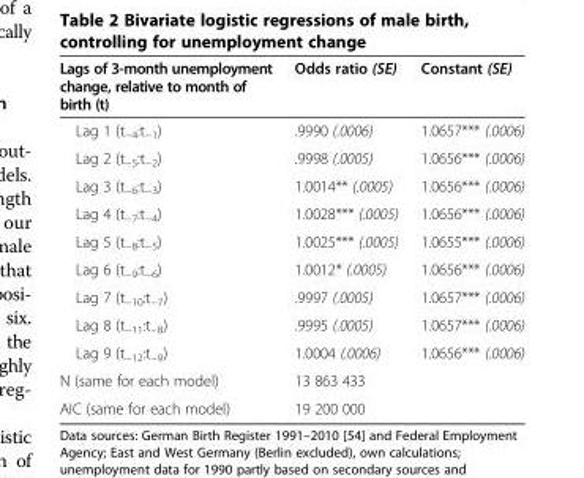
<table><thead><tr><td>Lags of 3-month unemployment change, relative to month of birth (t)</td><td>Odds ratio (SE)</td><td>Constant (SE)</td></tr></thead><tbody><tr><td>Lag 1 (t<sub>−4</sub>:t<sub>−1</sub>)</td><td>.9990 (.0006)</td><td>1.0657*** (.0006)</td></tr><tr><td>Lag 2 (t<sub>−5</sub>:t<sub>−2</sub>)</td><td>.9998 (.0005)</td><td>1.0656*** (.0006)</td></tr><tr><td>Lag 3 (t<sub>−6</sub>:t<sub>−3</sub>)</td><td>1.0014** (.0005)</td><td>1.0656*** (.0006)</td></tr><tr><td>Lag 4 (t<sub>−7</sub>:t<sub>−4</sub>)</td><td>1.0028*** (.0005)</td><td>1.0656*** (.0006)</td></tr><tr><td>Lag 5 (t<sub>−8</sub>:t<sub>−5</sub>)</td><td>1.0025*** (.0005)</td><td>1.0655*** (.0006)</td></tr><tr><td>Lag 6 (t<sub>−9</sub>:t<sub>−6</sub>)</td><td>1.0012* (.0005)</td><td>1.0656*** (.0006)</td></tr><tr><td>Lag 7 (t<sub>−10</sub>:t<sub>−7</sub>)</td><td>.9997 (.0005)</td><td>1.0657*** (.0006)</td></tr><tr><td>Lag 8 (t<sub>−11</sub>:t<sub>−8</sub>)</td><td>.9995 (.0005)</td><td>1.0657*** (.0006)</td></tr><tr><td>Lag 9 (t<sub>−12</sub>:t<sub>−9</sub>)</td><td>1.0004 (.0006)</td><td>1.0656*** (.0006)</td></tr><tr><td>N (same for each model)</td><td colspan="2">13 863 433</td></tr><tr><td>AIC (same for each model)</td><td colspan="2">19 200 000</td></tr></tbody></table>